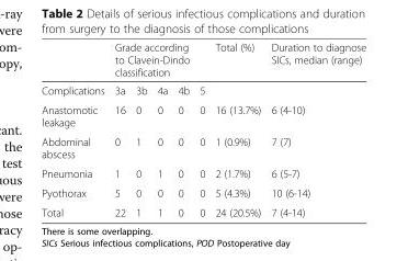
<table><thead><tr><td rowspan="2">Complications</td><td colspan="5">Grade according to Clavein-Dindo classification</td><td rowspan="2">Total (%)</td><td rowspan="2">Duration to diagnose SICs, median (range)</td></tr><tr><td>3a</td><td>3b</td><td>4a</td><td>4b</td><td>5</td></tr></thead><tbody><tr><td>Anastomotic leakage</td><td>16</td><td>0</td><td>0</td><td>0</td><td>0</td><td>16 (13.7%)</td><td>6 (4-10)</td></tr><tr><td>Abdominal abscess</td><td>0</td><td>1</td><td>0</td><td>0</td><td>0</td><td>1 (0.9%)</td><td>7 (7)</td></tr><tr><td>Pneumonia</td><td>1</td><td>0</td><td>1</td><td>0</td><td>0</td><td>2 (1.7%)</td><td>6 (5-7)</td></tr><tr><td>Pyothorax</td><td>5</td><td>0</td><td>0</td><td>0</td><td>0</td><td>5 (4.3%)</td><td>10 (6-14)</td></tr><tr><td>Total</td><td>22</td><td>1</td><td>1</td><td>0</td><td>0</td><td>24 (20.5%)</td><td>7 (4-14)</td></tr></tbody></table>